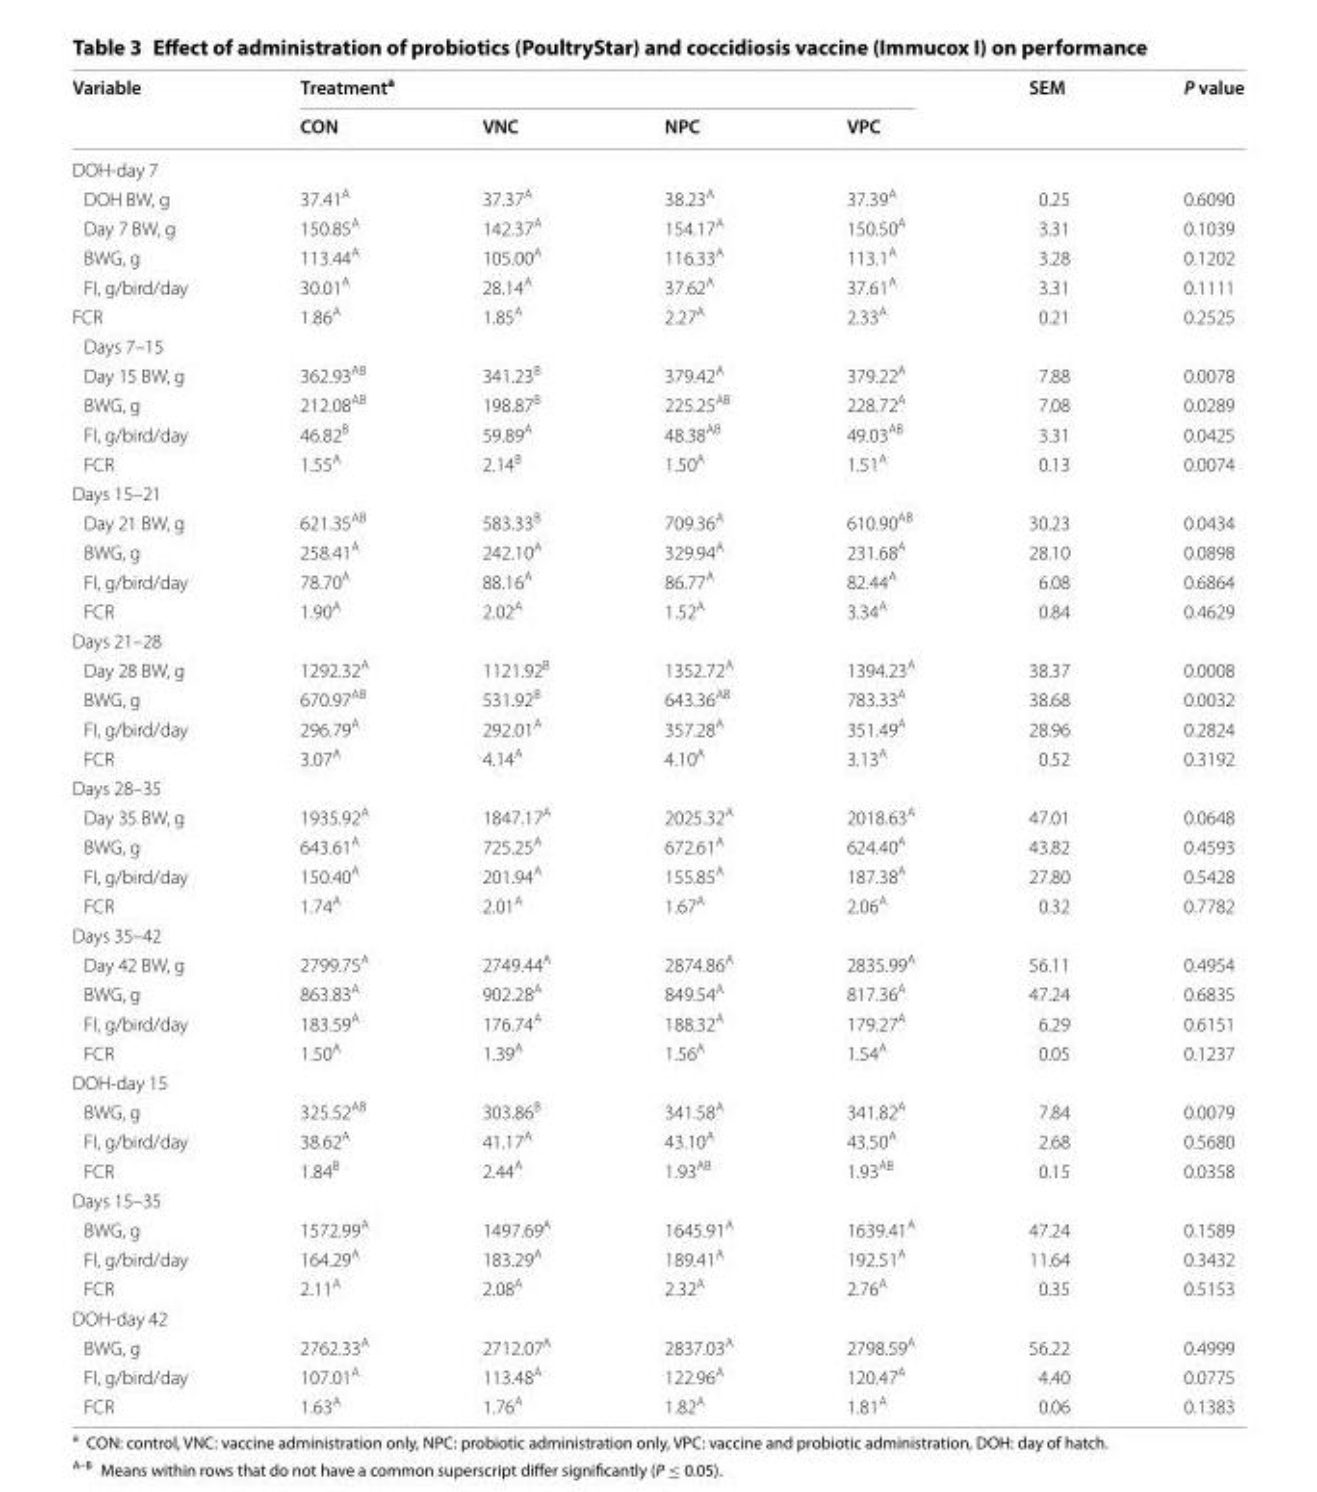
<table><thead><tr><td rowspan="2">Variable</td><td colspan="4">Treatment<sup>a</sup></td><td rowspan="2">SEM</td><td rowspan="2">P value</td></tr><tr><td>CON</td><td>VNC</td><td>NPC</td><td>VPC</td></tr></thead><tbody><tr><td colspan="7">DOH‑day 7</td></tr><tr><td>DOH BW, g</td><td>37.41<sup>A</sup></td><td>37.37<sup>A</sup></td><td>38.23<sup>A</sup></td><td>37.39<sup>A</sup></td><td>0.25</td><td>0.6090</td></tr><tr><td>Day 7 BW, g</td><td>150.85<sup>A</sup></td><td>142.37<sup>A</sup></td><td>154.17<sup>A</sup></td><td>150.50<sup>A</sup></td><td>3.31</td><td>0.1039</td></tr><tr><td>BWG, g</td><td>113.44<sup>A</sup></td><td>105.00<sup>A</sup></td><td>116.33<sup>A</sup></td><td>113.1<sup>A</sup></td><td>3.28</td><td>0.1202</td></tr><tr><td>FI, g/bird/day</td><td>30.01<sup>A</sup></td><td>28.14<sup>A</sup></td><td>37.62<sup>A</sup></td><td>37.61<sup>A</sup></td><td>3.31</td><td>0.1111</td></tr><tr><td>FCR</td><td>1.86<sup>A</sup></td><td>1.85<sup>A</sup></td><td>2.27<sup>A</sup></td><td>2.33<sup>A</sup></td><td>0.21</td><td>0.2525</td></tr><tr><td colspan="7">Days 7–15</td></tr><tr><td>Day 15 BW, g</td><td>362.93<sup>AB</sup></td><td>341.23<sup>B</sup></td><td>379.42<sup>A</sup></td><td>379.22<sup>A</sup></td><td>7.88</td><td>0.0078</td></tr><tr><td>BWG, g</td><td>212.08<sup>AB</sup></td><td>198.87<sup>B</sup></td><td>225.25<sup>AB</sup></td><td>228.72<sup>A</sup></td><td>7.08</td><td>0.0289</td></tr><tr><td>FI, g/bird/day</td><td>46.82<sup>B</sup></td><td>59.89<sup>A</sup></td><td>48.38<sup>AB</sup></td><td>49.03<sup>AB</sup></td><td>3.31</td><td>0.0425</td></tr><tr><td>FCR</td><td>1.55<sup>A</sup></td><td>2.14<sup>B</sup></td><td>1.50<sup>A</sup></td><td>1.51<sup>A</sup></td><td>0.13</td><td>0.0074</td></tr><tr><td colspan="7">Days 15–21</td></tr><tr><td>Day 21 BW, g</td><td>621.35<sup>AB</sup></td><td>583.33<sup>B</sup></td><td>709.36<sup>A</sup></td><td>610.90<sup>AB</sup></td><td>30.23</td><td>0.0434</td></tr><tr><td>BWG, g</td><td>258.41<sup>A</sup></td><td>242.10<sup>A</sup></td><td>329.94<sup>A</sup></td><td>231.68<sup>A</sup></td><td>28.10</td><td>0.0898</td></tr><tr><td>FI, g/bird/day</td><td>78.70<sup>A</sup></td><td>88.16<sup>A</sup></td><td>86.77<sup>A</sup></td><td>82.44<sup>A</sup></td><td>6.08</td><td>0.6864</td></tr><tr><td>FCR</td><td>1.90<sup>A</sup></td><td>2.02<sup>A</sup></td><td>1.52<sup>A</sup></td><td>3.34<sup>A</sup></td><td>0.84</td><td>0.4629</td></tr><tr><td colspan="7">Days 21–28</td></tr><tr><td>Day 28 BW, g</td><td>1292.32<sup>A</sup></td><td>1121.92<sup>B</sup></td><td>1352.72<sup>A</sup></td><td>1394.23<sup>A</sup></td><td>38.37</td><td>0.0008</td></tr><tr><td>BWG, g</td><td>670.97<sup>AB</sup></td><td>531.92<sup>B</sup></td><td>643.36<sup>AB</sup></td><td>783.33<sup>A</sup></td><td>38.68</td><td>0.0032</td></tr><tr><td>FI, g/bird/day</td><td>296.79<sup>A</sup></td><td>292.01<sup>A</sup></td><td>357.28<sup>A</sup></td><td>351.49<sup>A</sup></td><td>28.96</td><td>0.2824</td></tr><tr><td>FCR</td><td>3.07<sup>A</sup></td><td>4.14<sup>A</sup></td><td>4.10<sup>A</sup></td><td>3.13<sup>A</sup></td><td>0.52</td><td>0.3192</td></tr><tr><td colspan="7">Days 28–35</td></tr><tr><td>Day 35 BW, g</td><td>1935.92<sup>A</sup></td><td>1847.17<sup>A</sup></td><td>2025.32<sup>A</sup></td><td>2018.63<sup>A</sup></td><td>47.01</td><td>0.0648</td></tr><tr><td>BWG, g</td><td>643.61<sup>A</sup></td><td>725.25<sup>A</sup></td><td>672.61<sup>A</sup></td><td>624.40<sup>A</sup></td><td>43.82</td><td>0.4593</td></tr><tr><td>FI, g/bird/day</td><td>150.40<sup>A</sup></td><td>201.94<sup>A</sup></td><td>155.85<sup>A</sup></td><td>187.38<sup>A</sup></td><td>27.80</td><td>0.5428</td></tr><tr><td>FCR</td><td>1.74<sup>A</sup></td><td>2.01<sup>A</sup></td><td>1.67<sup>A</sup></td><td>2.06<sup>A</sup></td><td>0.32</td><td>0.7782</td></tr><tr><td colspan="7">Days 35–42</td></tr><tr><td>Day 42 BW, g</td><td>2799.75<sup>A</sup></td><td>2749.44<sup>A</sup></td><td>2874.86<sup>A</sup></td><td>2835.99<sup>A</sup></td><td>56.11</td><td>0.4954</td></tr><tr><td>BWG, g</td><td>863.83<sup>A</sup></td><td>902.28<sup>A</sup></td><td>849.54<sup>A</sup></td><td>817.36<sup>A</sup></td><td>47.24</td><td>0.6835</td></tr><tr><td>FI, g/bird/day</td><td>183.59<sup>A</sup></td><td>176.74<sup>A</sup></td><td>188.32<sup>A</sup></td><td>179.27<sup>A</sup></td><td>6.29</td><td>0.6151</td></tr><tr><td>FCR</td><td>1.50<sup>A</sup></td><td>1.39<sup>A</sup></td><td>1.56<sup>A</sup></td><td>1.54<sup>A</sup></td><td>0.05</td><td>0.1237</td></tr><tr><td colspan="7">DOH‑day 15</td></tr><tr><td>BWG, g</td><td>325.52<sup>AB</sup></td><td>303.86<sup>B</sup></td><td>341.58<sup>A</sup></td><td>341.82<sup>A</sup></td><td>7.84</td><td>0.0079</td></tr><tr><td>FI, g/bird/day</td><td>38.62<sup>A</sup></td><td>41.17<sup>A</sup></td><td>43.10<sup>A</sup></td><td>43.50<sup>A</sup></td><td>2.68</td><td>0.5680</td></tr><tr><td>FCR</td><td>1.84<sup>B</sup></td><td>2.44<sup>A</sup></td><td>1.93<sup>AB</sup></td><td>1.93<sup>AB</sup></td><td>0.15</td><td>0.0358</td></tr><tr><td colspan="7">Days 15–35</td></tr><tr><td>BWG, g</td><td>1572.99<sup>A</sup></td><td>1497.69<sup>A</sup></td><td>1645.91<sup>A</sup></td><td>1639.41<sup>A</sup></td><td>47.24</td><td>0.1589</td></tr><tr><td>FI, g/bird/day</td><td>164.29<sup>A</sup></td><td>183.29<sup>A</sup></td><td>189.41<sup>A</sup></td><td>192.51<sup>A</sup></td><td>11.64</td><td>0.3432</td></tr><tr><td>FCR</td><td>2.11<sup>A</sup></td><td>2.08<sup>A</sup></td><td>2.32<sup>A</sup></td><td>2.76<sup>A</sup></td><td>0.35</td><td>0.5153</td></tr><tr><td colspan="7">DOH‑day 42</td></tr><tr><td>BWG, g</td><td>2762.33<sup>A</sup></td><td>2712.07<sup>A</sup></td><td>2837.03<sup>A</sup></td><td>2798.59<sup>A</sup></td><td>56.22</td><td>0.4999</td></tr><tr><td>FI, g/bird/day</td><td>107.01<sup>A</sup></td><td>113.48<sup>A</sup></td><td>122.96<sup>A</sup></td><td>120.47<sup>A</sup></td><td>4.40</td><td>0.0775</td></tr><tr><td>FCR</td><td>1.63<sup>A</sup></td><td>1.76<sup>A</sup></td><td>1.82<sup>A</sup></td><td>1.81<sup>A</sup></td><td>0.06</td><td>0.1383</td></tr></tbody></table>